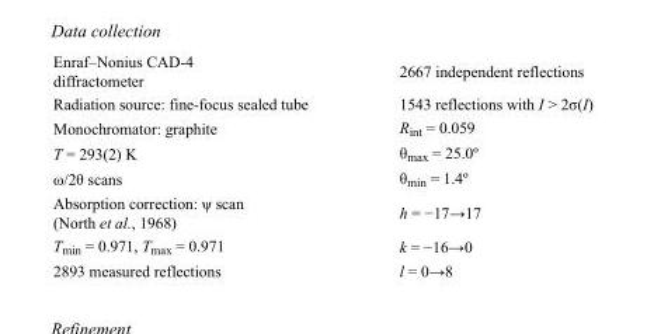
<table><tbody><tr><td>Enraf–Nonius CAD-4 diffractometer</td><td>2667 independent reflections</td></tr><tr><td>Radiation source: fine-focus sealed tube</td><td>1543 reflections with I &gt; 2σ(I)</td></tr><tr><td>Monochromator: graphite</td><td>R<sub>int</sub> = 0.059</td></tr><tr><td>T = 293(2) K</td><td>θ<sub>max</sub> = 25.0º</td></tr><tr><td>ω/2θ scans</td><td>θ<sub>min</sub> = 1.4º</td></tr><tr><td>Absorption correction: ψ scan (North et al., 1968)</td><td>h = −17→17</td></tr><tr><td>T<sub>min</sub> = 0.971, T<sub>max</sub> = 0.971</td><td>k = −16→0</td></tr><tr><td>2893 measured reflections</td><td>l = 0→8</td></tr></tbody></table>